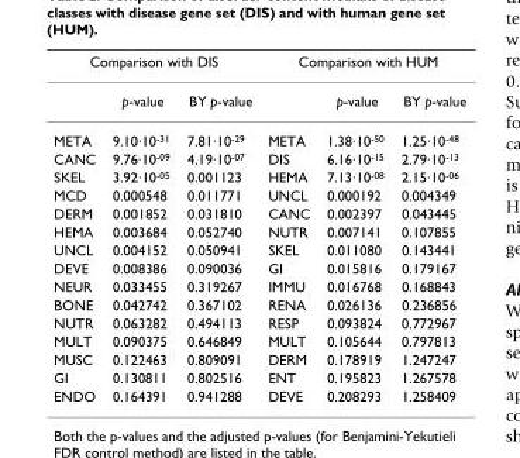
<table><thead><tr><td colspan="3">Comparison with DIS</td><td colspan="3">Comparison with HUM</td></tr><tr><td></td><td>p-value</td><td>BY p-value</td><td></td><td>p-value</td><td>BY p-value</td></tr></thead><tbody><tr><td>META</td><td>9.10·10<sup>-31</sup></td><td>7.81·10<sup>-29</sup></td><td>META</td><td>1.38·10<sup>-50</sup></td><td>1.25·10<sup>-48</sup></td></tr><tr><td>CANC</td><td>9.76·10<sup>-09</sup></td><td>4.19·10<sup>-07</sup></td><td>DIS</td><td>6.16·10<sup>-15</sup></td><td>2.79·10<sup>-13</sup></td></tr><tr><td>SKEL</td><td>3.92·10<sup>-05</sup></td><td>0.001123</td><td>HEMA</td><td>7.13·10<sup>-08</sup></td><td>2.15·10<sup>-06</sup></td></tr><tr><td>MCD</td><td>0.000548</td><td>0.011771</td><td>UNCL</td><td>0.000192</td><td>0.004349</td></tr><tr><td>DERM</td><td>0.001852</td><td>0.031810</td><td>CANC</td><td>0.002397</td><td>0.043445</td></tr><tr><td>HEMA</td><td>0.003684</td><td>0.052740</td><td>NUTR</td><td>0.007141</td><td>0.107855</td></tr><tr><td>UNCL</td><td>0.004152</td><td>0.050941</td><td>SKEL</td><td>0.011080</td><td>0.143441</td></tr><tr><td>DEVE</td><td>0.008386</td><td>0.090036</td><td>GI</td><td>0.015816</td><td>0.179167</td></tr><tr><td>NEUR</td><td>0.033455</td><td>0.319267</td><td>IMMU</td><td>0.016768</td><td>0.168843</td></tr><tr><td>BONE</td><td>0.042742</td><td>0.367102</td><td>RENA</td><td>0.026136</td><td>0.236856</td></tr><tr><td>NUTR</td><td>0.063282</td><td>0.494113</td><td>RESP</td><td>0.093824</td><td>0.772967</td></tr><tr><td>MULT</td><td>0.090375</td><td>0.646849</td><td>MULT</td><td>0.105644</td><td>0.797813</td></tr><tr><td>MUSC</td><td>0.122463</td><td>0.809091</td><td>DERM</td><td>0.178919</td><td>1.247247</td></tr><tr><td>GI</td><td>0.130811</td><td>0.802516</td><td>ENT</td><td>0.195823</td><td>1.267578</td></tr><tr><td>ENDO</td><td>0.164391</td><td>0.941288</td><td>DEVE</td><td>0.208293</td><td>1.258409</td></tr></tbody></table>